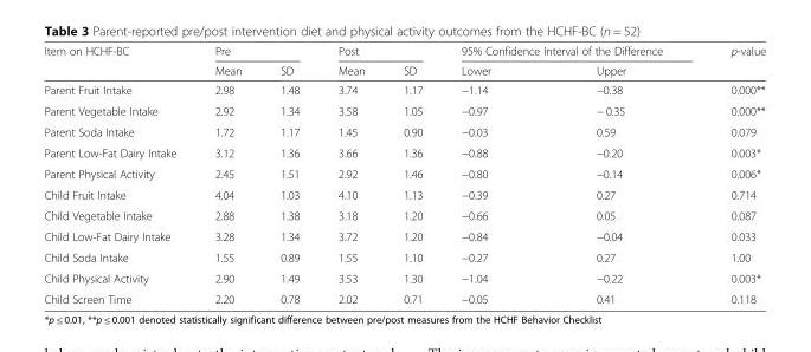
<table><thead><tr><td rowspan="2">Item on HCHF-BC</td><td colspan="2">Pre</td><td colspan="2">Post</td><td colspan="2">95% Confidence Interval of the Difference</td><td rowspan="2">p-value</td></tr><tr><td>Mean</td><td>SD</td><td>Mean</td><td>SD</td><td>Lower</td><td>Upper</td></tr></thead><tbody><tr><td>Parent Fruit Intake</td><td>2.98</td><td>1.48</td><td>3.74</td><td>1.17</td><td>−1.14</td><td>−0.38</td><td>0.000**</td></tr><tr><td>Parent Vegetable Intake</td><td>2.92</td><td>1.34</td><td>3.58</td><td>1.05</td><td>−0.97</td><td>− 0.35</td><td>0.000**</td></tr><tr><td>Parent Soda Intake</td><td>1.72</td><td>1.17</td><td>1.45</td><td>0.90</td><td>−0.03</td><td>0.59</td><td>0.079</td></tr><tr><td>Parent Low-Fat Dairy Intake</td><td>3.12</td><td>1.36</td><td>3.66</td><td>1.36</td><td>−0.88</td><td>−0.20</td><td>0.003*</td></tr><tr><td>Parent Physical Activity</td><td>2.45</td><td>1.51</td><td>2.92</td><td>1.46</td><td>−0.80</td><td>−0.14</td><td>0.006*</td></tr><tr><td>Child Fruit Intake</td><td>4.04</td><td>1.03</td><td>4.10</td><td>1.13</td><td>−0.39</td><td>0.27</td><td>0.714</td></tr><tr><td>Child Vegetable Intake</td><td>2.88</td><td>1.38</td><td>3.18</td><td>1.20</td><td>−0.66</td><td>0.05</td><td>0.087</td></tr><tr><td>Child Low-Fat Dairy Intake</td><td>3.28</td><td>1.34</td><td>3.72</td><td>1.20</td><td>−0.84</td><td>−0.04</td><td>0.033</td></tr><tr><td>Child Soda Intake</td><td>1.55</td><td>0.89</td><td>1.55</td><td>1.10</td><td>−0.27</td><td>0.27</td><td>1.00</td></tr><tr><td>Child Physical Activity</td><td>2.90</td><td>1.49</td><td>3.53</td><td>1.30</td><td>−1.04</td><td>−0.22</td><td>0.003*</td></tr><tr><td>Child Screen Time</td><td>2.20</td><td>0.78</td><td>2.02</td><td>0.71</td><td>−0.05</td><td>0.41</td><td>0.118</td></tr></tbody></table>